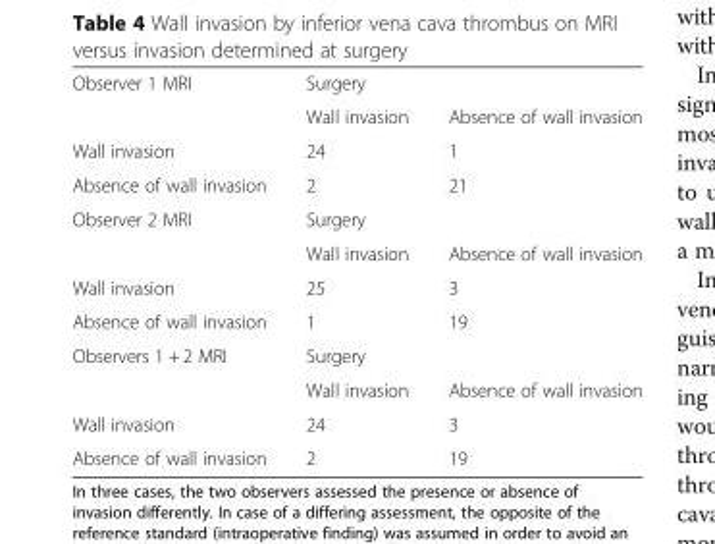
<table><tbody><tr><td rowspan="2">Observer 1 MRI</td><td colspan="2">Surgery</td></tr><tr><td>Wall invasion</td><td>Absence of wall invasion</td></tr><tr><td>Wall invasion</td><td>24</td><td>1</td></tr><tr><td>Absence of wall invasion</td><td>2</td><td>21</td></tr><tr><td rowspan="2">Observer 2 MRI</td><td colspan="2">Surgery</td></tr><tr><td>Wall invasion</td><td>Absence of wall invasion</td></tr><tr><td>Wall invasion</td><td>25</td><td>3</td></tr><tr><td>Absence of wall invasion</td><td>1</td><td>19</td></tr><tr><td rowspan="2">Observers 1 + 2 MRI</td><td colspan="2">Surgery</td></tr><tr><td>Wall invasion</td><td>Absence of wall invasion</td></tr><tr><td>Wall invasion</td><td>24</td><td>3</td></tr><tr><td>Absence of wall invasion</td><td>2</td><td>19</td></tr></tbody></table>